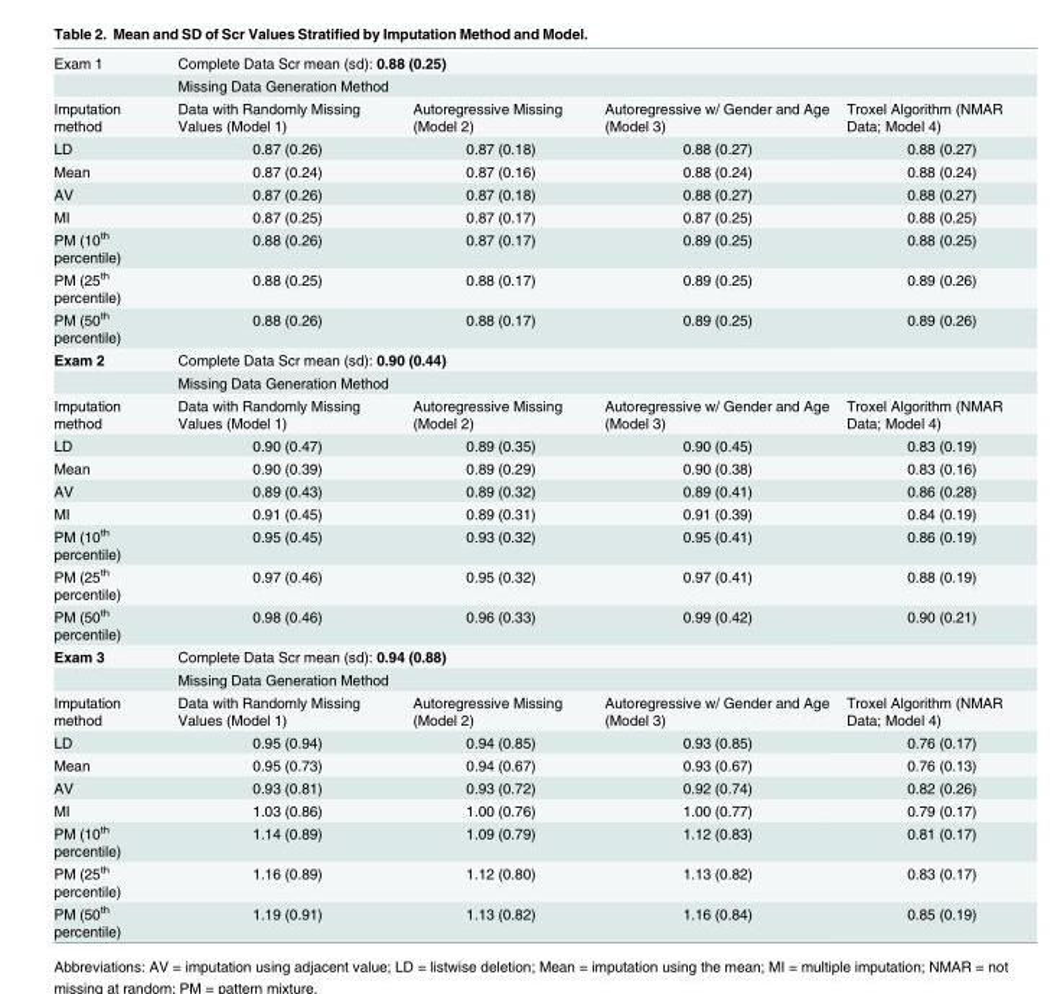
<table><tbody><tr><td rowspan="2">Exam 1</td><td colspan="4">Complete Data Scr mean (sd): 0.88 (0.25)</td></tr><tr><td colspan="4">Missing Data Generation Method</td></tr><tr><td>Imputation method</td><td>Data with Randomly Missing Values (Model 1)</td><td>Autoregressive Missing (Model 2)</td><td>Autoregressive w/ Gender and Age (Model 3)</td><td>Troxel Algorithm (NMAR Data; Model 4)</td></tr><tr><td>LD</td><td>0.87 (0.26)</td><td>0.87 (0.18)</td><td>0.88 (0.27)</td><td>0.88 (0.27)</td></tr><tr><td>Mean</td><td>0.87 (0.24)</td><td>0.87 (0.16)</td><td>0.88 (0.24)</td><td>0.88 (0.24)</td></tr><tr><td>AV</td><td>0.87 (0.26)</td><td>0.87 (0.18)</td><td>0.88 (0.27)</td><td>0.88 (0.27)</td></tr><tr><td>MI</td><td>0.87 (0.25)</td><td>0.87 (0.17)</td><td>0.87 (0.25)</td><td>0.88 (0.25)</td></tr><tr><td>PM (10<sup>th</sup> percentile)</td><td>0.88 (0.26)</td><td>0.87 (0.17)</td><td>0.89 (0.25)</td><td>0.88 (0.25)</td></tr><tr><td>PM (25<sup>th</sup> percentile)</td><td>0.88 (0.25)</td><td>0.88 (0.17)</td><td>0.89 (0.25)</td><td>0.89 (0.26)</td></tr><tr><td>PM (50<sup>th</sup> percentile)</td><td>0.88 (0.26)</td><td>0.88 (0.17)</td><td>0.89 (0.25)</td><td>0.89 (0.26)</td></tr><tr><td rowspan="2">Exam 2</td><td colspan="4">Complete Data Scr mean (sd): 0.90 (0.44)</td></tr><tr><td colspan="4">Missing Data Generation Method</td></tr><tr><td>Imputation method</td><td>Data with Randomly Missing Values (Model 1)</td><td>Autoregressive Missing (Model 2)</td><td>Autoregressive w/ Gender and Age (Model 3)</td><td>Troxel Algorithm (NMAR Data; Model 4)</td></tr><tr><td>LD</td><td>0.90 (0.47)</td><td>0.89 (0.35)</td><td>0.90 (0.45)</td><td>0.83 (0.19)</td></tr><tr><td>Mean</td><td>0.90 (0.39)</td><td>0.89 (0.29)</td><td>0.90 (0.38)</td><td>0.83 (0.16)</td></tr><tr><td>AV</td><td>0.89 (0.43)</td><td>0.89 (0.32)</td><td>0.89 (0.41)</td><td>0.86 (0.28)</td></tr><tr><td>MI</td><td>0.91 (0.45)</td><td>0.89 (0.31)</td><td>0.91 (0.39)</td><td>0.84 (0.19)</td></tr><tr><td>PM (10<sup>th</sup> percentile)</td><td>0.95 (0.45)</td><td>0.93 (0.32)</td><td>0.95 (0.41)</td><td>0.86 (0.19)</td></tr><tr><td>PM (25<sup>th</sup> percentile)</td><td>0.97 (0.46)</td><td>0.95 (0.32)</td><td>0.97 (0.41)</td><td>0.88 (0.19)</td></tr><tr><td>PM (50<sup>th</sup> percentile)</td><td>0.98 (0.46)</td><td>0.96 (0.33)</td><td>0.99 (0.42)</td><td>0.90 (0.21)</td></tr><tr><td rowspan="2">Exam 3</td><td colspan="4">Complete Data Scr mean (sd): 0.94 (0.88)</td></tr><tr><td colspan="4">Missing Data Generation Method</td></tr><tr><td>Imputation method</td><td>Data with Randomly Missing Values (Model 1)</td><td>Autoregressive Missing (Model 2)</td><td>Autoregressive w/ Gender and Age (Model 3)</td><td>Troxel Algorithm (NMAR Data; Model 4)</td></tr><tr><td>LD</td><td>0.95 (0.94)</td><td>0.94 (0.85)</td><td>0.93 (0.85)</td><td>0.76 (0.17)</td></tr><tr><td>Mean</td><td>0.95 (0.73)</td><td>0.94 (0.67)</td><td>0.93 (0.67)</td><td>0.76 (0.13)</td></tr><tr><td>AV</td><td>0.93 (0.81)</td><td>0.93 (0.72)</td><td>0.92 (0.74)</td><td>0.82 (0.26)</td></tr><tr><td>MI</td><td>1.03 (0.86)</td><td>1.00 (0.76)</td><td>1.00 (0.77)</td><td>0.79 (0.17)</td></tr><tr><td>PM (10<sup>th</sup> percentile)</td><td>1.14 (0.89)</td><td>1.09 (0.79)</td><td>1.12 (0.83)</td><td>0.81 (0.17)</td></tr><tr><td>PM (25<sup>th</sup> percentile)</td><td>1.16 (0.89)</td><td>1.12 (0.80)</td><td>1.13 (0.82)</td><td>0.83 (0.17)</td></tr><tr><td>PM (50<sup>th</sup> percentile)</td><td>1.19 (0.91)</td><td>1.13 (0.82)</td><td>1.16 (0.84)</td><td>0.85 (0.19)</td></tr></tbody></table>